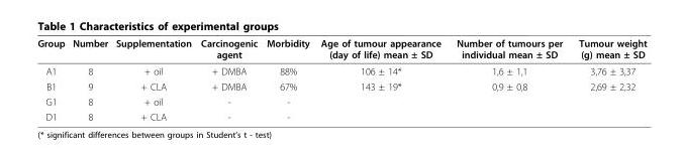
<table><thead><tr><td>Group</td><td>Number</td><td>Supplementation</td><td>Carcinogenic agent</td><td>Morbidity</td><td>Age of tumour appearance (day of life) mean ± SD</td><td>Number of tumours per individual mean ± SD</td><td>Tumour weight (g) mean ± SD</td></tr></thead><tbody><tr><td>A1</td><td>8</td><td>+ oil</td><td>+ DMBA</td><td>88%</td><td>106 ± 14*</td><td>1,6 ± 1,1</td><td>3,76 ± 3,37</td></tr><tr><td>B1</td><td>9</td><td>+ CLA</td><td>+ DMBA</td><td>67%</td><td>143 ± 19*</td><td>0,9 ± 0,8</td><td>2,69 ± 2,32</td></tr><tr><td>G1</td><td>8</td><td>+ oil</td><td>-</td><td>-</td><td></td><td></td><td></td></tr><tr><td>D1</td><td>8</td><td>+ CLA</td><td>-</td><td>-</td><td></td><td></td><td></td></tr></tbody></table>